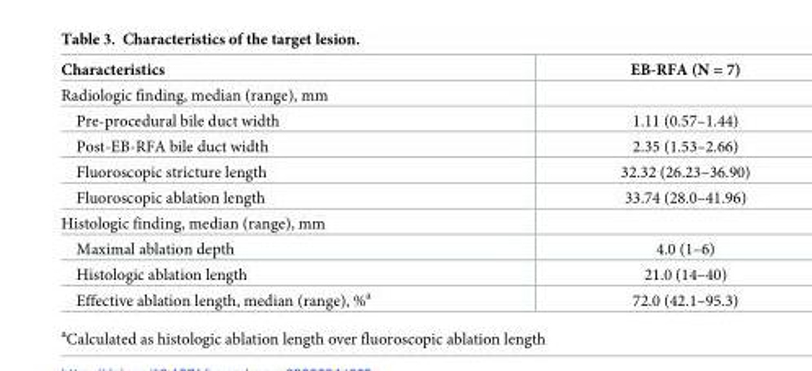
<table><thead><tr><td>Characteristics</td><td>EB-RFA (N = 7)</td></tr></thead><tbody><tr><td colspan="2">Radiologic finding, median (range), mm</td></tr><tr><td>Pre-procedural bile duct width</td><td>1.11 (0.57–1.44)</td></tr><tr><td>Post-EB-RFA bile duct width</td><td>2.35 (1.53–2.66)</td></tr><tr><td>Fluoroscopic stricture length</td><td>32.32 (26.23–36.90)</td></tr><tr><td>Fluoroscopic ablation length</td><td>33.74 (28.0–41.96)</td></tr><tr><td colspan="2">Histologic finding, median (range), mm</td></tr><tr><td>Maximal ablation depth</td><td>4.0 (1–6)</td></tr><tr><td>Histologic ablation length</td><td>21.0 (14–40)</td></tr><tr><td>Effective ablation length, median (range), %<sup>a</sup></td><td>72.0 (42.1–95.3)</td></tr></tbody></table>